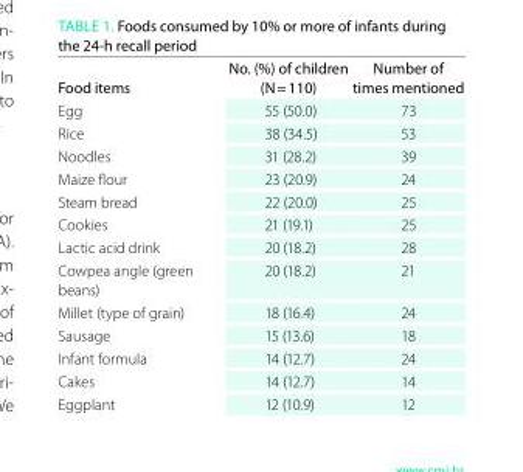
<table><thead><tr><td>Food items</td><td>No. (%) of children (N = 110)</td><td>Number of times mentioned</td></tr></thead><tbody><tr><td>Egg</td><td>55 (50.0)</td><td>73</td></tr><tr><td>Rice</td><td>38 (34.5)</td><td>53</td></tr><tr><td>Noodles</td><td>31 (28.2)</td><td>39</td></tr><tr><td>Maize flour</td><td>23 (20.9)</td><td>24</td></tr><tr><td>Steam bread</td><td>22 (20.0)</td><td>25</td></tr><tr><td>Cookies</td><td>21 (19.1)</td><td>25</td></tr><tr><td>Lactic acid drink</td><td>20 (18.2)</td><td>28</td></tr><tr><td>Cowpea angle (green beans)</td><td>20 (18.2)</td><td>21</td></tr><tr><td>Millet (type of grain)</td><td>18 (16.4)</td><td>24</td></tr><tr><td>Sausage</td><td>15 (13.6)</td><td>18</td></tr><tr><td>Infant formula</td><td>14 (12.7)</td><td>24</td></tr><tr><td>Cakes</td><td>14 (12.7)</td><td>14</td></tr><tr><td>Eggplant</td><td>12 (10.9)</td><td>12</td></tr></tbody></table>